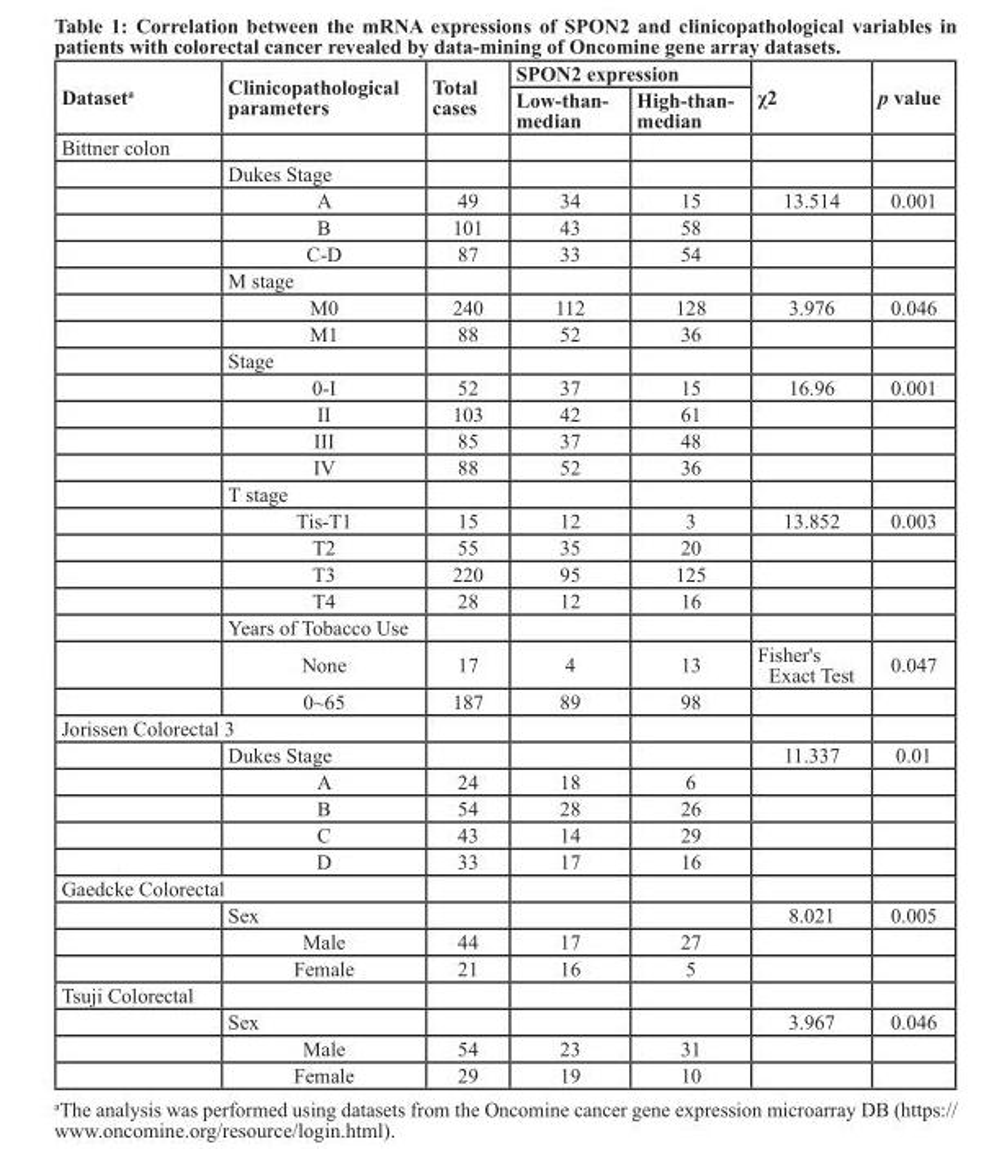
<table><thead><tr><td rowspan="2">Dataset<sup>a</sup></td><td rowspan="2">Clinicopathological parameters</td><td rowspan="2">Total cases</td><td colspan="2">SPON2 expression</td><td rowspan="2">χ<sup>2</sup></td><td rowspan="2">p value</td></tr><tr><td>Low-than- median</td><td>High-than- median</td></tr></thead><tbody><tr><td colspan="7">Bittner colon</td></tr><tr><td></td><td>Dukes Stage</td><td></td><td></td><td></td><td></td><td></td></tr><tr><td></td><td>A</td><td>49</td><td>34</td><td>15</td><td>13.514</td><td>0.001</td></tr><tr><td></td><td>B</td><td>101</td><td>43</td><td>58</td><td></td><td></td></tr><tr><td></td><td>C-D</td><td>87</td><td>33</td><td>54</td><td></td><td></td></tr><tr><td></td><td>M stage</td><td></td><td></td><td></td><td></td><td></td></tr><tr><td></td><td>M0</td><td>240</td><td>112</td><td>128</td><td>3.976</td><td>0.046</td></tr><tr><td></td><td>M1</td><td>88</td><td>52</td><td>36</td><td></td><td></td></tr><tr><td></td><td>Stage</td><td></td><td></td><td></td><td></td><td></td></tr><tr><td></td><td>0-I</td><td>52</td><td>37</td><td>15</td><td>16.96</td><td>0.001</td></tr><tr><td></td><td>II</td><td>103</td><td>42</td><td>61</td><td></td><td></td></tr><tr><td></td><td>III</td><td>85</td><td>37</td><td>48</td><td></td><td></td></tr><tr><td></td><td>IV</td><td>88</td><td>52</td><td>36</td><td></td><td></td></tr><tr><td></td><td>T stage</td><td></td><td></td><td></td><td></td><td></td></tr><tr><td></td><td>Tis-T1</td><td>15</td><td>12</td><td>3</td><td>13.852</td><td>0.003</td></tr><tr><td></td><td>T2</td><td>55</td><td>35</td><td>20</td><td></td><td></td></tr><tr><td></td><td>T3</td><td>220</td><td>95</td><td>125</td><td></td><td></td></tr><tr><td></td><td>T4</td><td>28</td><td>12</td><td>16</td><td></td><td></td></tr><tr><td></td><td>Years of Tobacco Use</td><td></td><td></td><td></td><td></td><td></td></tr><tr><td></td><td>None</td><td>17</td><td>4</td><td>13</td><td>Fisher&#x27;s Exact Test</td><td>0.047</td></tr><tr><td></td><td>0~65</td><td>187</td><td>89</td><td>98</td><td></td><td></td></tr><tr><td colspan="7">Jorissen Colorectal 3</td></tr><tr><td></td><td>Dukes Stage</td><td></td><td></td><td></td><td>11.337</td><td>0.01</td></tr><tr><td></td><td>A</td><td>24</td><td>18</td><td>6</td><td></td><td></td></tr><tr><td></td><td>B</td><td>54</td><td>28</td><td>26</td><td></td><td></td></tr><tr><td></td><td>C</td><td>43</td><td>14</td><td>29</td><td></td><td></td></tr><tr><td></td><td>D</td><td>33</td><td>17</td><td>16</td><td></td><td></td></tr><tr><td colspan="7">Gaedcke Colorectal</td></tr><tr><td></td><td>Sex</td><td></td><td></td><td></td><td>8.021</td><td>0.005</td></tr><tr><td></td><td>Male</td><td>44</td><td>17</td><td>27</td><td></td><td></td></tr><tr><td></td><td>Female</td><td>21</td><td>16</td><td>5</td><td></td><td></td></tr><tr><td colspan="7">Tsuji Colorectal</td></tr><tr><td></td><td>Sex</td><td></td><td></td><td></td><td>3.967</td><td>0.046</td></tr><tr><td></td><td>Male</td><td>54</td><td>23</td><td>31</td><td></td><td></td></tr><tr><td></td><td>Female</td><td>29</td><td>19</td><td>10</td><td></td><td></td></tr></tbody></table>